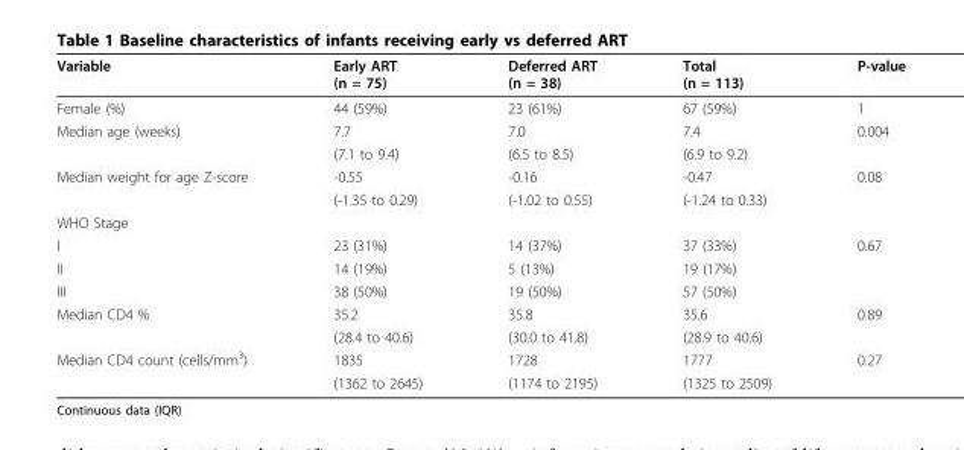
<table><thead><tr><td>Variable</td><td>Early ART (n = 75)</td><td>Deferred ART (n = 38)</td><td>Total (n = 113)</td><td>P-value</td></tr></thead><tbody><tr><td>Female (%)</td><td>44 (59%)</td><td>23 (61%)</td><td>67 (59%)</td><td>1</td></tr><tr><td rowspan="2">Median age (weeks)</td><td>7.7</td><td>7.0</td><td>7.4</td><td>0.004</td></tr><tr><td>(7.1 to 9.4)</td><td>(6.5 to 8.5)</td><td>(6.9 to 9.2)</td><td></td></tr><tr><td rowspan="2">Median weight for age Z-score</td><td>-0.55</td><td>-0.16</td><td>-0.47</td><td>0.08</td></tr><tr><td>(-1.35 to 0.29)</td><td>(-1.02 to 0.55)</td><td>(-1.24 to 0.33)</td><td></td></tr><tr><td colspan="5">WHO Stage</td></tr><tr><td>I</td><td>23 (31%)</td><td>14 (37%)</td><td>37 (33%)</td><td>0.67</td></tr><tr><td>II</td><td>14 (19%)</td><td>5 (13%)</td><td>19 (17%)</td><td></td></tr><tr><td>III</td><td>38 (50%)</td><td>19 (50%)</td><td>57 (50%)</td><td></td></tr><tr><td rowspan="2">Median CD4 %</td><td>35.2</td><td>35.8</td><td>35.6</td><td>0.89</td></tr><tr><td>(28.4 to 40.6)</td><td>(30.0 to 41.8)</td><td>(28.9 to 40.6)</td><td></td></tr><tr><td rowspan="2">Median CD4 count (cells/mm<sup>3</sup>)</td><td>1835</td><td>1728</td><td>1777</td><td>0.27</td></tr><tr><td>(1362 to 2645)</td><td>(1174 to 2195)</td><td>(1325 to 2509)</td><td></td></tr></tbody></table>